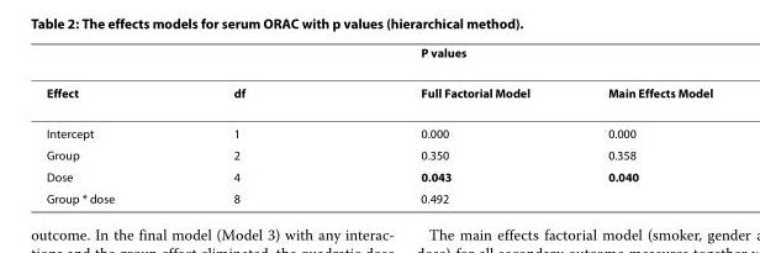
<table><thead><tr><td rowspan="2">Effect</td><td rowspan="2">df</td><td colspan="2">P values</td></tr><tr><td>Full Factorial Model</td><td>Main Effects Model</td></tr></thead><tbody><tr><td>Intercept</td><td>1</td><td>0.000</td><td>0.000</td></tr><tr><td>Group</td><td>2</td><td>0.350</td><td>0.358</td></tr><tr><td>Dose</td><td>4</td><td>0.043</td><td>0.040</td></tr><tr><td>Group * dose</td><td>8</td><td>0.492</td><td></td></tr></tbody></table>